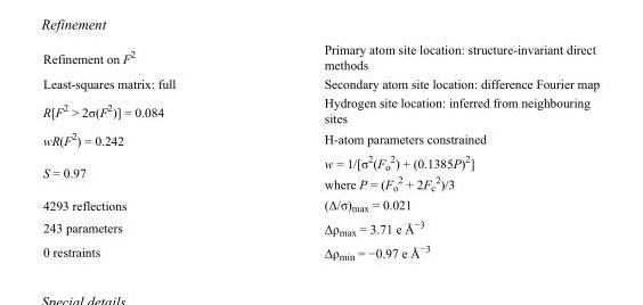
<table><tbody><tr><td>Refinement on F<sup>2</sup></td><td>Primary atom site location: structure-invariant direct methods</td></tr><tr><td>Least-squares matrix: full</td><td>Secondary atom site location: difference Fourier map</td></tr><tr><td>R[F<sup>2</sup> &gt; 2σ(F<sup>2</sup>)] = 0.084</td><td>Hydrogen site location: inferred from neighbouring sites</td></tr><tr><td>wR(F<sup>2</sup>) = 0.242</td><td>H-atom parameters constrained</td></tr><tr><td>S = 0.97</td><td>w = 1/[σ<sup>2</sup>(F<sub>o</sub> <sup>2</sup>) + (0.1385P)<sup>2</sup>] where P = (F<sub>o</sub> <sup>2</sup> + 2F<sub>c</sub> <sup>2</sup>)/3</td></tr><tr><td>4293 reflections</td><td>(Δ/σ)<sub>max</sub> = 0.021</td></tr><tr><td>243 parameters</td><td>Δρ<sub>max</sub> = 3.71 e Å<sup>−3</sup></td></tr><tr><td>0 restraints</td><td>Δρ<sub>min</sub> = −0.97 e Å<sup>−3</sup></td></tr></tbody></table>